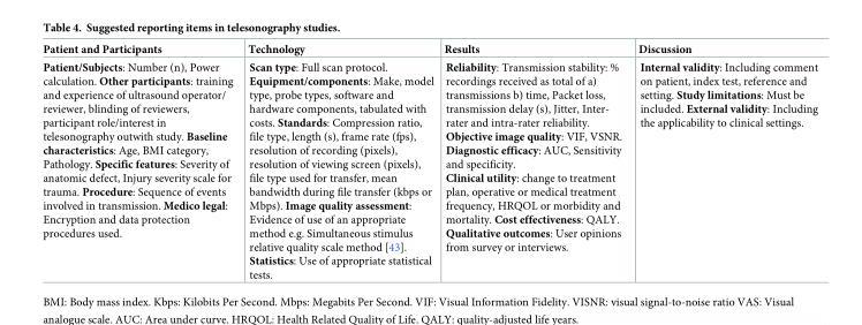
<table><thead><tr><td>Patient and Participants</td><td>Technology</td><td>Results</td><td>Discussion</td></tr></thead><tbody><tr><td>Patient/Subjects: Number (n), Power calculation. Other participants: training and experience of ultrasound operator/ reviewer, blinding of reviewers, participant role/interest in telesonography outwith study. Baseline characteristics: Age, BMI category, Pathology. Specific features: Severity of anatomic defect, Injury severity scale for trauma. Procedure: Sequence of events involved in transmission. Medico legal: Encryption and data protection procedures used.</td><td>Scan type: Full scan protocol. Equipment/components: Make, model type, probe types, software and hardware components, tabulated with costs. Standards: Compression ratio, file type, length (s), frame rate (fps), resolution of recording (pixels), resolution of viewing screen (pixels), file type used for transfer, mean bandwidth during file transfer (kbps or Mbps). Image quality assessment: Evidence of use of an appropriate method e.g. Simultaneous stimulus relative quality scale method [43]. Statistics: Use of appropriate statistical tests.</td><td>Reliability: Transmission stability: % recordings received as total of a) transmissions b) time, Packet loss, transmission delay (s), Jitter, Inter- rater and intra-rater reliability. Objective image quality: VIF, VSNR. Diagnostic efficacy: AUC, Sensitivity and specificity. Clinical utility: change to treatment plan, operative or medical treatment frequency, HRQOL or morbidity and mortality. Cost effectiveness: QALY. Qualitative outcomes: User opinions from survey or interviews.</td><td>Internal validity: Including comment on patient, index test, reference and setting. Study limitations: Must be included. External validity: Including the applicability to clinical settings.</td></tr></tbody></table>